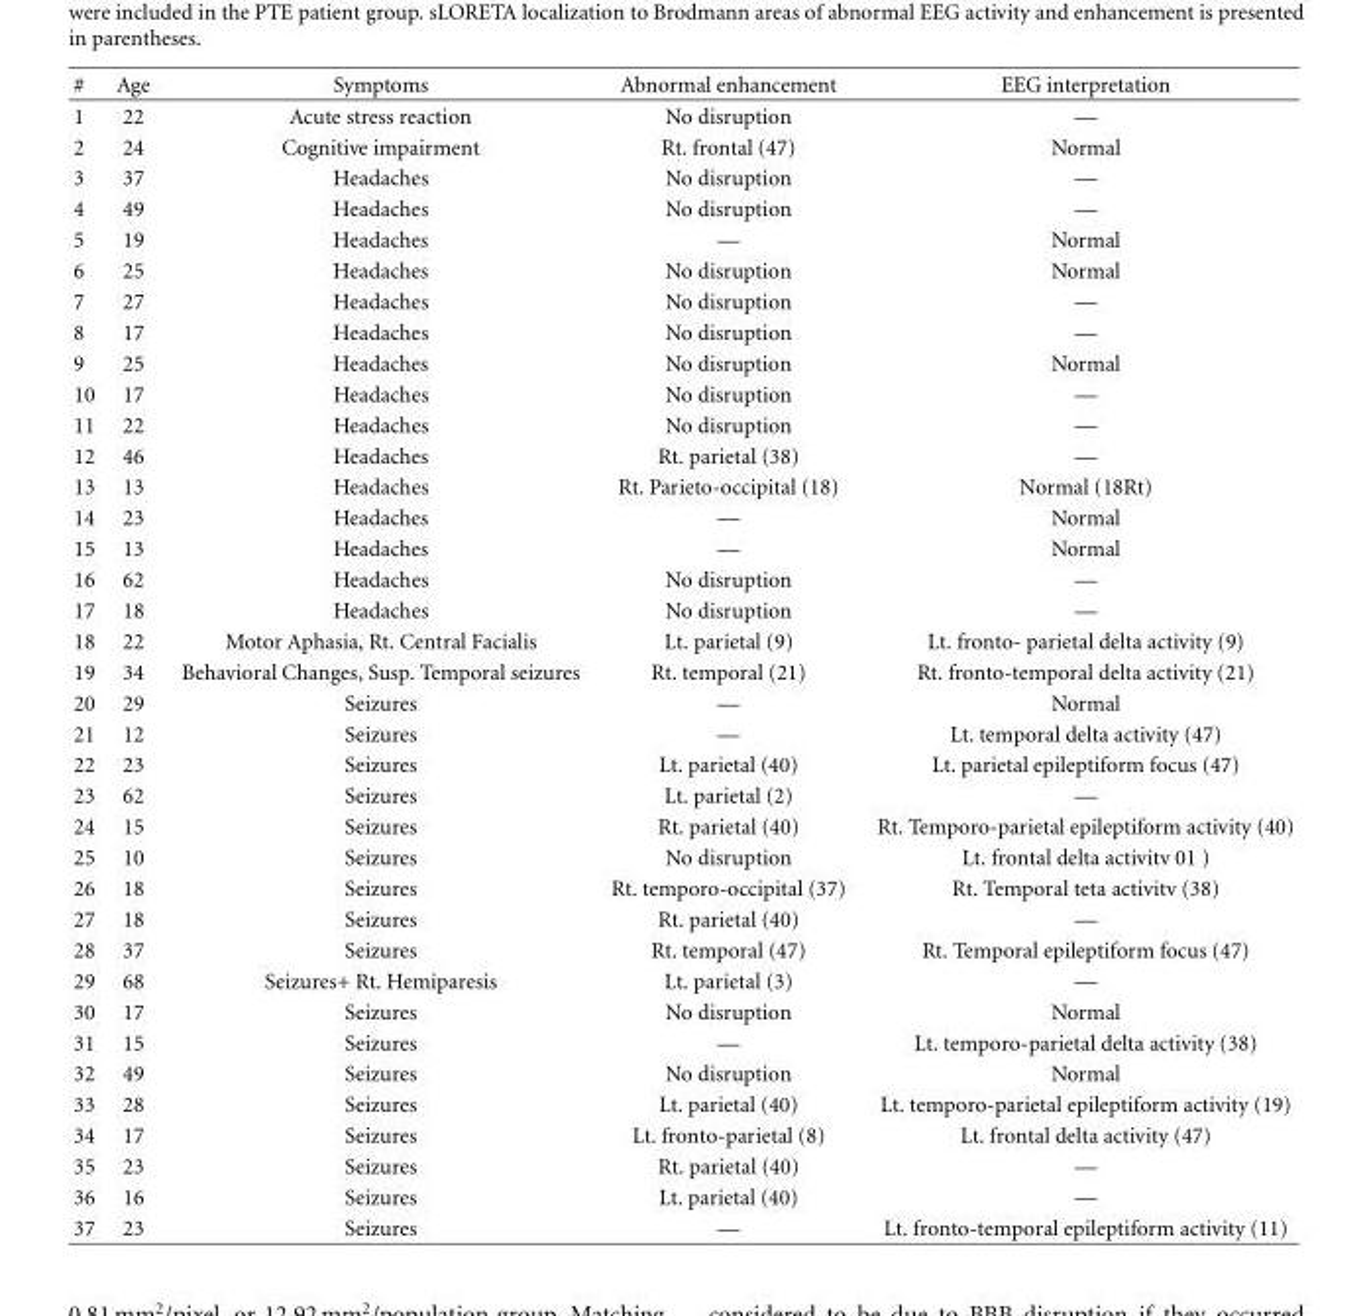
<table><thead><tr><td>#</td><td>Age</td><td>Symptoms</td><td>Abnormal enhancement</td><td>EEG interpretation</td></tr></thead><tbody><tr><td>1</td><td>22</td><td>Acute stress reaction</td><td>No disruption</td><td>—</td></tr><tr><td>2</td><td>24</td><td>Cognitive impairment</td><td>Rt. frontal (47)</td><td>Normal</td></tr><tr><td>3</td><td>37</td><td>Headaches</td><td>No disruption</td><td>—</td></tr><tr><td>4</td><td>49</td><td>Headaches</td><td>No disruption</td><td>—</td></tr><tr><td>5</td><td>19</td><td>Headaches</td><td>—</td><td>Normal</td></tr><tr><td>6</td><td>25</td><td>Headaches</td><td>No disruption</td><td>Normal</td></tr><tr><td>7</td><td>27</td><td>Headaches</td><td>No disruption</td><td>—</td></tr><tr><td>8</td><td>17</td><td>Headaches</td><td>No disruption</td><td>—</td></tr><tr><td>9</td><td>25</td><td>Headaches</td><td>No disruption</td><td>Normal</td></tr><tr><td>10</td><td>17</td><td>Headaches</td><td>No disruption</td><td>—</td></tr><tr><td>11</td><td>22</td><td>Headaches</td><td>No disruption</td><td>—</td></tr><tr><td>12</td><td>46</td><td>Headaches</td><td>Rt. parietal (38)</td><td>—</td></tr><tr><td>13</td><td>13</td><td>Headaches</td><td>Rt. Parieto-occipital (18)</td><td>Normal (18Rt)</td></tr><tr><td>14</td><td>23</td><td>Headaches</td><td>—</td><td>Normal</td></tr><tr><td>15</td><td>13</td><td>Headaches</td><td>—</td><td>Normal</td></tr><tr><td>16</td><td>62</td><td>Headaches</td><td>No disruption</td><td>—</td></tr><tr><td>17</td><td>18</td><td>Headaches</td><td>No disruption</td><td>—</td></tr><tr><td>18</td><td>22</td><td>Motor Aphasia, Rt. Central Facialis</td><td>Lt. parietal (9)</td><td>Lt. fronto- parietal delta activity (9)</td></tr><tr><td>19</td><td>34</td><td>Behavioral Changes, Susp. Temporal seizures</td><td>Rt. temporal (21)</td><td>Rt. fronto-temporal delta activity (21)</td></tr><tr><td>20</td><td>29</td><td>Seizures</td><td>—</td><td>Normal</td></tr><tr><td>21</td><td>12</td><td>Seizures</td><td>—</td><td>Lt. temporal delta activity (47)</td></tr><tr><td>22</td><td>23</td><td>Seizures</td><td>Lt. parietal (40)</td><td>Lt. parietal epileptiform focus (47)</td></tr><tr><td>23</td><td>62</td><td>Seizures</td><td>Lt. parietal (2)</td><td>—</td></tr><tr><td>24</td><td>15</td><td>Seizures</td><td>Rt. parietal (40)</td><td>Rt. Temporo-parietal epileptiform activity (40)</td></tr><tr><td>25</td><td>10</td><td>Seizures</td><td>No disruption</td><td>Lt. frontal delta activitv 01 )</td></tr><tr><td>26</td><td>18</td><td>Seizures</td><td>Rt. temporo-occipital (37)</td><td>Rt. Temporal teta activitv (38)</td></tr><tr><td>27</td><td>18</td><td>Seizures</td><td>Rt. parietal (40)</td><td>—</td></tr><tr><td>28</td><td>37</td><td>Seizures</td><td>Rt. temporal (47)</td><td>Rt. Temporal epileptiform focus (47)</td></tr><tr><td>29</td><td>68</td><td>Seizures+ Rt. Hemiparesis</td><td>Lt. parietal (3)</td><td>—</td></tr><tr><td>30</td><td>17</td><td>Seizures</td><td>No disruption</td><td>Normal</td></tr><tr><td>31</td><td>15</td><td>Seizures</td><td>—</td><td>Lt. temporo-parietal delta activity (38)</td></tr><tr><td>32</td><td>49</td><td>Seizures</td><td>No disruption</td><td>Normal</td></tr><tr><td>33</td><td>28</td><td>Seizures</td><td>Lt. parietal (40)</td><td>Lt. temporo-parietal epileptiform activity (19)</td></tr><tr><td>34</td><td>17</td><td>Seizures</td><td>Lt. fronto-parietal (8)</td><td>Lt. frontal delta activity (47)</td></tr><tr><td>35</td><td>23</td><td>Seizures</td><td>Rt. parietal (40)</td><td>—</td></tr><tr><td>36</td><td>16</td><td>Seizures</td><td>Lt. parietal (40)</td><td>—</td></tr><tr><td>37</td><td>23</td><td>Seizures</td><td>—</td><td>Lt. fronto-temporal epileptiform activity (11)</td></tr></tbody></table>